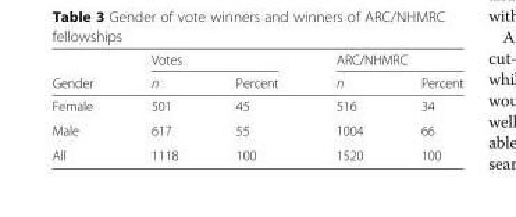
<table><thead><tr><td rowspan="2">Gender</td><td colspan="2">Votes</td><td colspan="2">ARC/NHMRC</td></tr><tr><td>n</td><td>Percent</td><td>n</td><td>Percent</td></tr></thead><tbody><tr><td>Female</td><td>501</td><td>45</td><td>516</td><td>34</td></tr><tr><td>Male</td><td>617</td><td>55</td><td>1004</td><td>66</td></tr><tr><td>All</td><td>1118</td><td>100</td><td>1520</td><td>100</td></tr></tbody></table>